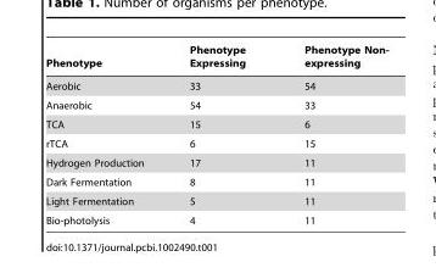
<table><thead><tr><td>Phenotype</td><td>Phenotype Expressing</td><td>Phenotype Non- expressing</td></tr></thead><tbody><tr><td>Aerobic</td><td>33</td><td>54</td></tr><tr><td>Anaerobic</td><td>54</td><td>33</td></tr><tr><td>TCA</td><td>15</td><td>6</td></tr><tr><td>rTCA</td><td>6</td><td>15</td></tr><tr><td>Hydrogen Production</td><td>17</td><td>11</td></tr><tr><td>Dark Fermentation</td><td>8</td><td>11</td></tr><tr><td>Light Fermentation</td><td>5</td><td>11</td></tr><tr><td>Bio-photolysis</td><td>4</td><td>11</td></tr></tbody></table>